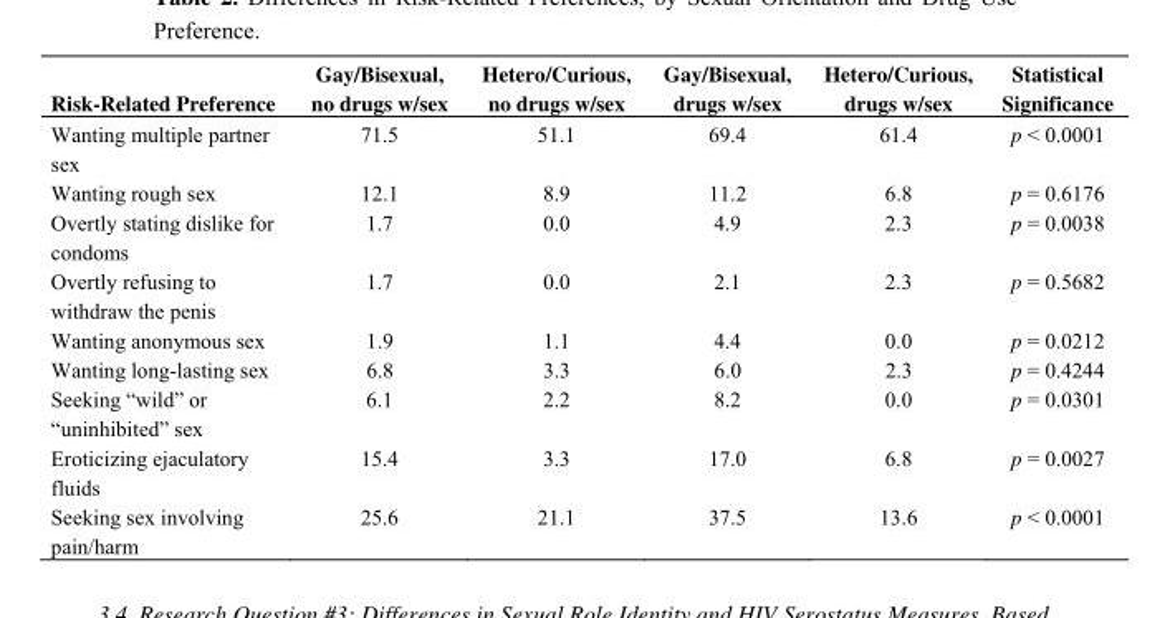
<table><thead><tr><td>Risk-Related Preference</td><td>Gay/Bisexual, no drugs w/sex</td><td>Hetero/Curious, no drugs w/sex</td><td>Gay/Bisexual, drugs w/sex</td><td>Hetero/Curious, drugs w/sex</td><td>Statistical Significance</td></tr></thead><tbody><tr><td>Wanting multiple partner sex</td><td>71.5</td><td>51.1</td><td>69.4</td><td>61.4</td><td>p &lt; 0.0001</td></tr><tr><td>Wanting rough sex</td><td>12.1</td><td>8.9</td><td>11.2</td><td>6.8</td><td>p = 0.6176</td></tr><tr><td>Overtly stating dislike for condoms</td><td>1.7</td><td>0.0</td><td>4.9</td><td>2.3</td><td>p = 0.0038</td></tr><tr><td>Overtly refusing to withdraw the penis</td><td>1.7</td><td>0.0</td><td>2.1</td><td>2.3</td><td>p = 0.5682</td></tr><tr><td>Wanting anonymous sex</td><td>1.9</td><td>1.1</td><td>4.4</td><td>0.0</td><td>p = 0.0212</td></tr><tr><td>Wanting long-lasting sex</td><td>6.8</td><td>3.3</td><td>6.0</td><td>2.3</td><td>p = 0.4244</td></tr><tr><td>Seeking “wild” or “uninhibited” sex</td><td>6.1</td><td>2.2</td><td>8.2</td><td>0.0</td><td>p = 0.0301</td></tr><tr><td>Eroticizing ejaculatory fluids</td><td>15.4</td><td>3.3</td><td>17.0</td><td>6.8</td><td>p = 0.0027</td></tr><tr><td>Seeking sex involving pain/harm</td><td>25.6</td><td>21.1</td><td>37.5</td><td>13.6</td><td>p &lt; 0.0001</td></tr></tbody></table>